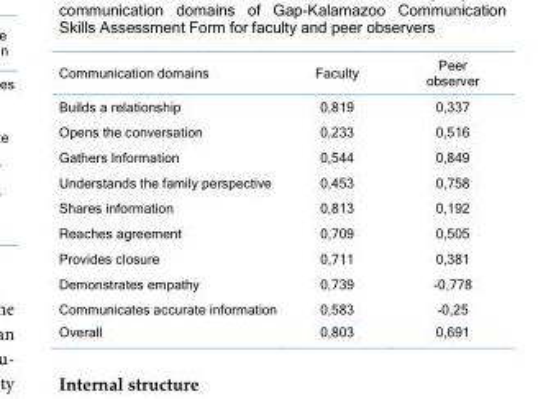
<table><thead><tr><td>Communication domains</td><td>Faculty</td><td>Peer observer</td></tr></thead><tbody><tr><td>Builds a relationship</td><td>0,819</td><td>0,337</td></tr><tr><td>Opens the conversation</td><td>0,233</td><td>0,516</td></tr><tr><td>Gathers Information</td><td>0,544</td><td>0,849</td></tr><tr><td>Understands the family perspective</td><td>0,453</td><td>0,758</td></tr><tr><td>Shares information</td><td>0,813</td><td>0,192</td></tr><tr><td>Reaches agreement</td><td>0,709</td><td>0,505</td></tr><tr><td>Provides closure</td><td>0,711</td><td>0,381</td></tr><tr><td>Demonstrates empathy</td><td>0,739</td><td>-0,778</td></tr><tr><td>Communicates accurate information</td><td>0,583</td><td>-0,25</td></tr><tr><td>Overall</td><td>0,803</td><td>0,691</td></tr></tbody></table>